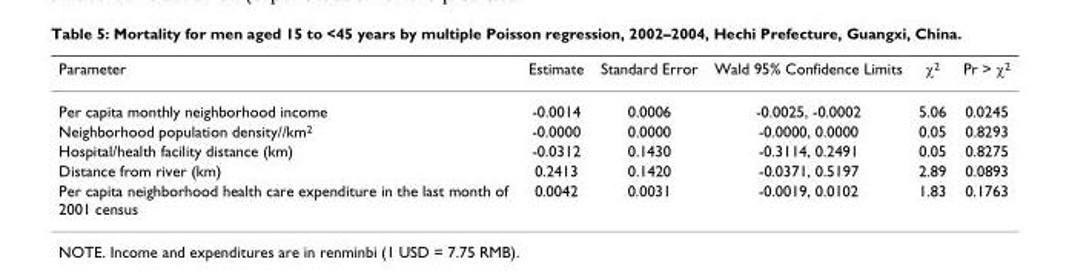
<table><thead><tr><td>Parameter</td><td>Estimate</td><td>Standard Error</td><td>Wald 95% Confidence Limits</td><td>χ<sup>2</sup></td><td>Pr &gt; χ<sup>2</sup></td></tr></thead><tbody><tr><td>Per capita monthly neighborhood income</td><td>-0.0014</td><td>0.0006</td><td>-0.0025, -0.0002</td><td>5.06</td><td>0.0245</td></tr><tr><td>Neighborhood population density//km<sup>2</sup></td><td>-0.0000</td><td>0.0000</td><td>-0.0000, 0.0000</td><td>0.05</td><td>0.8293</td></tr><tr><td>Hospital/health facility distance (km)</td><td>-0.0312</td><td>0.1430</td><td>-0.3114, 0.2491</td><td>0.05</td><td>0.8275</td></tr><tr><td>Distance from river (km)</td><td>0.2413</td><td>0.1420</td><td>-0.0371, 0.5197</td><td>2.89</td><td>0.0893</td></tr><tr><td>Per capita neighborhood health care expenditure in the last month of 2001 census</td><td>0.0042</td><td>0.0031</td><td>-0.0019, 0.0102</td><td>1.83</td><td>0.1763</td></tr></tbody></table>